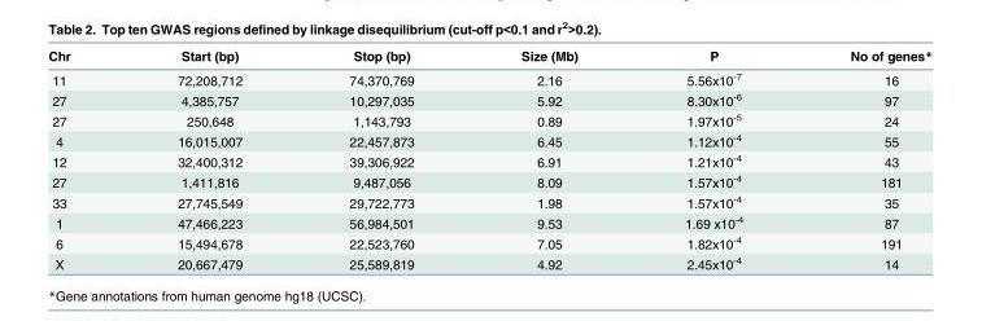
<table><thead><tr><td>Chr</td><td>Start (bp)</td><td>Stop (bp)</td><td>Size (Mb)</td><td>P</td><td>No of genes*</td></tr></thead><tbody><tr><td>11</td><td>72,208,712</td><td>74,370,769</td><td>2.16</td><td>5.56x10<sup>-7</sup></td><td>16</td></tr><tr><td>27</td><td>4,385,757</td><td>10,297,035</td><td>5.92</td><td>8.30x10<sup>-6</sup></td><td>97</td></tr><tr><td>27</td><td>250,648</td><td>1,143,793</td><td>0.89</td><td>1.97x10<sup>-5</sup></td><td>24</td></tr><tr><td>4</td><td>16,015,007</td><td>22,457,873</td><td>6.45</td><td>1.12x10<sup>-4</sup></td><td>55</td></tr><tr><td>12</td><td>32,400,312</td><td>39,306,922</td><td>6.91</td><td>1.21x10<sup>-4</sup></td><td>43</td></tr><tr><td>27</td><td>1,411,816</td><td>9,487,056</td><td>8.09</td><td>1.57x10<sup>-4</sup></td><td>181</td></tr><tr><td>33</td><td>27,745,549</td><td>29,722,773</td><td>1.98</td><td>1.57x10<sup>-4</sup></td><td>35</td></tr><tr><td>1</td><td>47,466,223</td><td>56,984,501</td><td>9.53</td><td>1.69 x10<sup>-4</sup></td><td>87</td></tr><tr><td>6</td><td>15,494,678</td><td>22,523,760</td><td>7.05</td><td>1.82x10<sup>-4</sup></td><td>191</td></tr><tr><td>X</td><td>20,667,479</td><td>25,589,819</td><td>4.92</td><td>2.45x10<sup>-4</sup></td><td>14</td></tr></tbody></table>